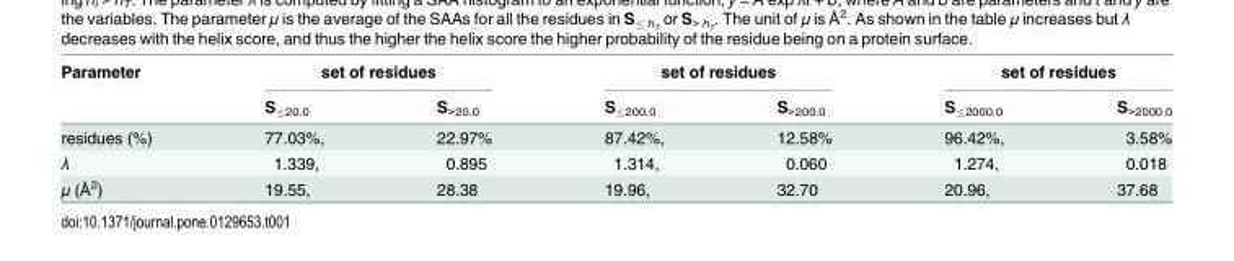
<table><thead><tr><td rowspan="2">Parameter</td><td colspan="2">set of residues</td><td colspan="2">set of residues</td><td colspan="2">set of residues</td></tr><tr><td>S<sub>≤20.0</sub></td><td>S<sub>&gt;20.0</sub></td><td>S<sub>≤200.0</sub></td><td>S<sub>&gt;200.0</sub></td><td>S<sub>≤2000.0</sub></td><td>S<sub>&gt;2000.0</sub></td></tr></thead><tbody><tr><td>residues (%)</td><td>77.03%,</td><td>22.97%</td><td>87.42%,</td><td>12.58%</td><td>96.42%,</td><td>3.58%</td></tr><tr><td>λ</td><td>1.339,</td><td>0.895</td><td>1.314,</td><td>0.060</td><td>1.274,</td><td>0.018</td></tr><tr><td>μ (Å<sup>2</sup>)</td><td>19.55,</td><td>28.38</td><td>19.96,</td><td>32.70</td><td>20.96,</td><td>37.68</td></tr></tbody></table>